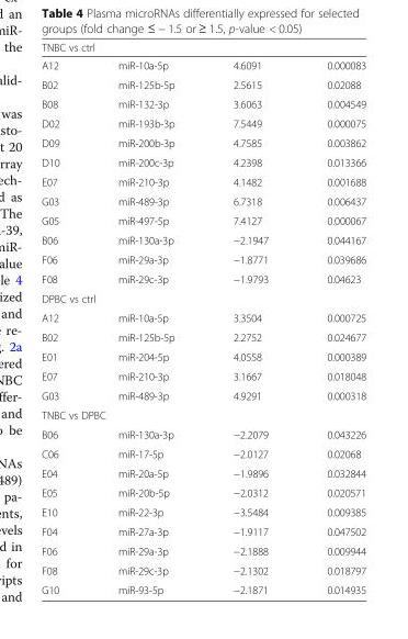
<table><thead><tr><td colspan="4">TNBC vs ctrl</td></tr><tr><td>A12</td><td>miR-10a-5p</td><td>4.6091</td><td>0.000083</td></tr></thead><tbody><tr><td>B02</td><td>miR-125b-5p</td><td>2.5615</td><td>0.02088</td></tr><tr><td>B08</td><td>miR-132-3p</td><td>3.6063</td><td>0.004549</td></tr><tr><td>D02</td><td>miR-193b-3p</td><td>7.5449</td><td>0.000075</td></tr><tr><td>D09</td><td>miR-200b-3p</td><td>4.7585</td><td>0.003862</td></tr><tr><td>D10</td><td>miR-200c-3p</td><td>4.2398</td><td>0.013366</td></tr><tr><td>E07</td><td>miR-210-3p</td><td>4.1482</td><td>0.001688</td></tr><tr><td>G03</td><td>miR-489-3p</td><td>6.7318</td><td>0.006437</td></tr><tr><td>G05</td><td>miR-497-5p</td><td>7.4127</td><td>0.000067</td></tr><tr><td>B06</td><td>miR-130a-3p</td><td>−2.1947</td><td>0.044167</td></tr><tr><td>F06</td><td>miR-29a-3p</td><td>−1.8771</td><td>0.039686</td></tr><tr><td>F08</td><td>miR-29c-3p</td><td>−1.9793</td><td>0.04623</td></tr><tr><td colspan="4">DPBC vs ctrl</td></tr><tr><td>A12</td><td>miR-10a-5p</td><td>3.3504</td><td>0.000725</td></tr><tr><td>B02</td><td>miR-125b-5p</td><td>2.2752</td><td>0.024677</td></tr><tr><td>E01</td><td>miR-204-5p</td><td>4.0558</td><td>0.000389</td></tr><tr><td>E07</td><td>miR-210-3p</td><td>3.1667</td><td>0.018048</td></tr><tr><td>G03</td><td>miR-489-3p</td><td>4.9291</td><td>0.000318</td></tr><tr><td colspan="4">TNBC vs DPBC</td></tr><tr><td>B06</td><td>miR-130a-3p</td><td>−2.2079</td><td>0.043226</td></tr><tr><td>C06</td><td>miR-17-5p</td><td>−2.0127</td><td>0.02068</td></tr><tr><td>E04</td><td>miR-20a-5p</td><td>−1.9896</td><td>0.032844</td></tr><tr><td>E05</td><td>miR-20b-5p</td><td>−2.0312</td><td>0.020571</td></tr><tr><td>E10</td><td>miR-22-3p</td><td>−3.5484</td><td>0.009385</td></tr><tr><td>F04</td><td>miR-27a-3p</td><td>−1.9117</td><td>0.047502</td></tr><tr><td>F06</td><td>miR-29a-3p</td><td>−2.1888</td><td>0.009944</td></tr><tr><td>F08</td><td>miR-29c-3p</td><td>−2.1302</td><td>0.018797</td></tr><tr><td>G10</td><td>miR-93-5p</td><td>−2.1871</td><td>0.014935</td></tr></tbody></table>